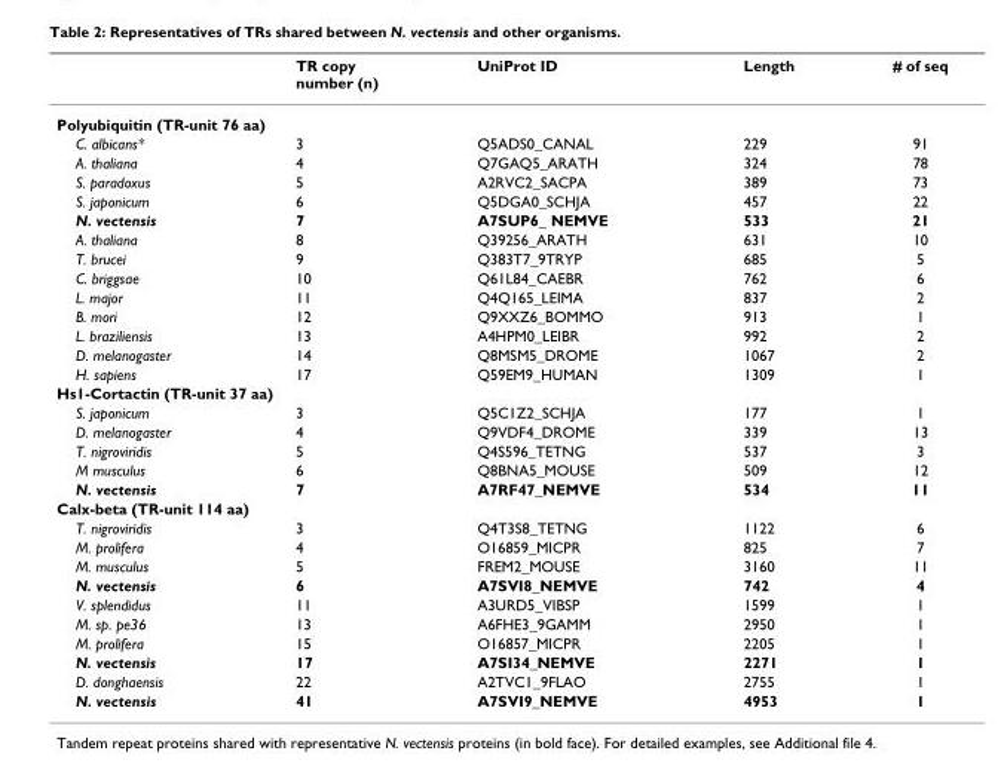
<table><thead><tr><td></td><td>TR copy number (n)</td><td>UniProt ID</td><td>Length</td><td># of seq</td></tr></thead><tbody><tr><td colspan="5">Polyubiquitin (TR-unit 76 aa)</td></tr><tr><td>C. albicans*</td><td>3</td><td>Q5ADS0_CANAL</td><td>229</td><td>91</td></tr><tr><td>A. thaliana</td><td>4</td><td>Q7GAQ5_ARATH</td><td>324</td><td>78</td></tr><tr><td>S. paradoxus</td><td>5</td><td>A2RVC2_SACPA</td><td>389</td><td>73</td></tr><tr><td>S. japonicum</td><td>6</td><td>Q5DGA0_SCHJA</td><td>457</td><td>22</td></tr><tr><td>N. vectensis</td><td>7</td><td>A7SUP6_ NEMVE</td><td>533</td><td>21</td></tr><tr><td>A. thaliana</td><td>8</td><td>Q39256_ARATH</td><td>631</td><td>10</td></tr><tr><td>T. brucei</td><td>9</td><td>Q383T7_9TRYP</td><td>685</td><td>5</td></tr><tr><td>C. briggsae</td><td>10</td><td>Q61L84_CAEBR</td><td>762</td><td>6</td></tr><tr><td>L. major</td><td>11</td><td>Q4Q165_LEIMA</td><td>837</td><td>2</td></tr><tr><td>B. mori</td><td>12</td><td>Q9XXZ6_BOMMO</td><td>913</td><td>1</td></tr><tr><td>L. braziliensis</td><td>13</td><td>A4HPM0_LEIBR</td><td>992</td><td>2</td></tr><tr><td>D. melanogaster</td><td>14</td><td>Q8MSM5_DROME</td><td>1067</td><td>2</td></tr><tr><td>H. sapiens</td><td>17</td><td>Q59EM9_HUMAN</td><td>1309</td><td>1</td></tr><tr><td colspan="5">Hs1-Cortactin (TR-unit 37 aa)</td></tr><tr><td>S. japonicum</td><td>3</td><td>Q5C1Z2_SCHJA</td><td>177</td><td>1</td></tr><tr><td>D. melanogaster</td><td>4</td><td>Q9VDF4_DROME</td><td>339</td><td>13</td></tr><tr><td>T. nigroviridis</td><td>5</td><td>Q4S596_TETNG</td><td>537</td><td>3</td></tr><tr><td>M musculus</td><td>6</td><td>Q8BNA5_MOUSE</td><td>509</td><td>12</td></tr><tr><td>N. vectensis</td><td>7</td><td>A7RF47_NEMVE</td><td>534</td><td>11</td></tr><tr><td colspan="5">Calx-beta (TR-unit 114 aa)</td></tr><tr><td>T. nigroviridis</td><td>3</td><td>Q4T3S8_TETNG</td><td>1122</td><td>6</td></tr><tr><td>M. prolifera</td><td>4</td><td>O16859_MICPR</td><td>825</td><td>7</td></tr><tr><td>M. musculus</td><td>5</td><td>FREM2_MOUSE</td><td>3160</td><td>11</td></tr><tr><td>N. vectensis</td><td>6</td><td>A7SVI8_NEMVE</td><td>742</td><td>4</td></tr><tr><td>V. splendidus</td><td>11</td><td>A3URD5_VIBSP</td><td>1599</td><td>1</td></tr><tr><td>M. sp. pe36</td><td>13</td><td>A6FHE3_9GAMM</td><td>2950</td><td>1</td></tr><tr><td>M. prolifera</td><td>15</td><td>O16857_MICPR</td><td>2205</td><td>1</td></tr><tr><td>N. vectensis</td><td>17</td><td>A7SI34_NEMVE</td><td>2271</td><td>1</td></tr><tr><td>D. donghaensis</td><td>22</td><td>A2TVC1_9FLAO</td><td>2755</td><td>1</td></tr><tr><td>N. vectensis</td><td>41</td><td>A7SVI9_NEMVE</td><td>4953</td><td>1</td></tr></tbody></table>